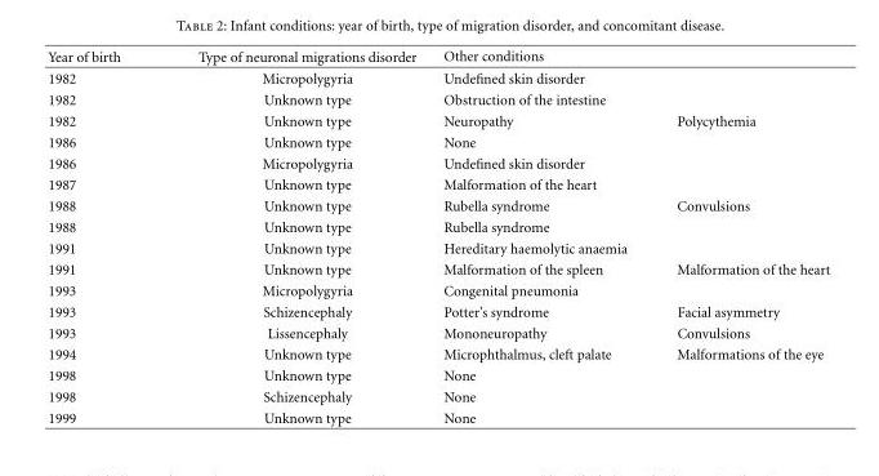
<table><thead><tr><td rowspan="2">Year of birth 1982</td><td rowspan="2">Type of neuronal migrations disorder Micropolygyria</td><td colspan="2">Other conditions</td></tr><tr><td>Undefined skin disorder</td><td></td></tr></thead><tbody><tr><td>1982</td><td>Unknown type</td><td>Obstruction of the intestine</td><td></td></tr><tr><td>1982</td><td>Unknown type</td><td>Neuropathy</td><td>Polycythemia</td></tr><tr><td>1986</td><td>Unknown type</td><td>None</td><td></td></tr><tr><td>1986</td><td>Micropolygyria</td><td>Undefined skin disorder</td><td></td></tr><tr><td>1987</td><td>Unknown type</td><td>Malformation of the heart</td><td></td></tr><tr><td>1988</td><td>Unknown type</td><td>Rubella syndrome</td><td>Convulsions</td></tr><tr><td>1988</td><td>Unknown type</td><td>Rubella syndrome</td><td></td></tr><tr><td>1991</td><td>Unknown type</td><td>Hereditary haemolytic anaemia</td><td></td></tr><tr><td>1991</td><td>Unknown type</td><td>Malformation of the spleen</td><td>Malformation of the heart</td></tr><tr><td>1993</td><td>Micropolygyria</td><td>Congenital pneumonia</td><td></td></tr><tr><td>1993</td><td>Schizencephaly</td><td>Potter’s syndrome</td><td>Facial asymmetry</td></tr><tr><td>1993</td><td>Lissencephaly</td><td>Mononeuropathy</td><td>Convulsions</td></tr><tr><td>1994</td><td>Unknown type</td><td>Microphthalmus, cleft palate</td><td>Malformations of the eye</td></tr><tr><td>1998</td><td>Unknown type</td><td>None</td><td></td></tr><tr><td>1998</td><td>Schizencephaly</td><td>None</td><td></td></tr><tr><td>1999</td><td>Unknown type</td><td>None</td><td></td></tr></tbody></table>